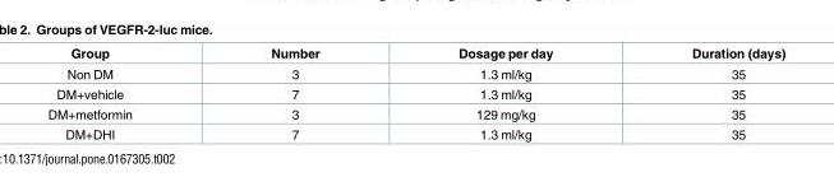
<table><thead><tr><td>Group</td><td>Number</td><td>Dosage per day</td><td>Duration (days)</td></tr></thead><tbody><tr><td>Non DM</td><td>3</td><td>1.3 ml/kg</td><td>35</td></tr><tr><td>DM+vehicle</td><td>7</td><td>1.3 ml/kg</td><td>35</td></tr><tr><td>DM+metformin</td><td>3</td><td>129 mg/kg</td><td>35</td></tr><tr><td>DM+DHI</td><td>7</td><td>1.3 ml/kg</td><td>35</td></tr></tbody></table>